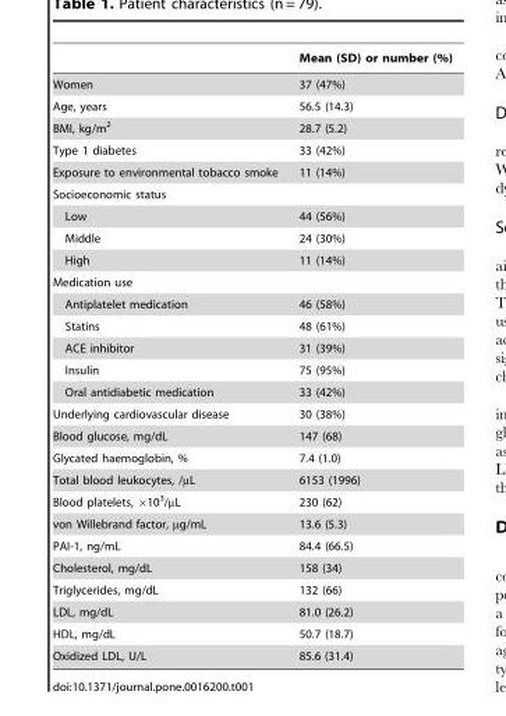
<table><thead><tr><td></td><td>Mean (SD) or number (%)</td></tr></thead><tbody><tr><td>Women</td><td>37 (47%)</td></tr><tr><td>Age, years</td><td>56.5 (14.3)</td></tr><tr><td>BMI, kg/m<sup>2</sup></td><td>28.7 (5.2)</td></tr><tr><td>Type 1 diabetes</td><td>33 (42%)</td></tr><tr><td>Exposure to environmental tobacco smoke</td><td>11 (14%)</td></tr><tr><td colspan="2">Socioeconomic status</td></tr><tr><td>Low</td><td>44 (56%)</td></tr><tr><td>Middle</td><td>24 (30%)</td></tr><tr><td>High</td><td>11 (14%)</td></tr><tr><td colspan="2">Medication use</td></tr><tr><td>Antiplatelet medication</td><td>46 (58%)</td></tr><tr><td>Statins</td><td>48 (61%)</td></tr><tr><td>ACE inhibitor</td><td>31 (39%)</td></tr><tr><td>Insulin</td><td>75 (95%)</td></tr><tr><td>Oral antidiabetic medication</td><td>33 (42%)</td></tr><tr><td>Underlying cardiovascular disease</td><td>30 (38%)</td></tr><tr><td>Blood glucose, mg/dL</td><td>147 (68)</td></tr><tr><td>Glycated haemoglobin, %</td><td>7.4 (1.0)</td></tr><tr><td>Total blood leukocytes, /µL</td><td>6153 (1996)</td></tr><tr><td>Blood platelets, ×10<sup>3</sup>/µL</td><td>230 (62)</td></tr><tr><td>von Willebrand factor, µg/mL</td><td>13.6 (5.3)</td></tr><tr><td>PAI-1, ng/mL</td><td>84.4 (66.5)</td></tr><tr><td>Cholesterol, mg/dL</td><td>158 (34)</td></tr><tr><td>Triglycerides, mg/dL</td><td>132 (66)</td></tr><tr><td>LDL, mg/dL</td><td>81.0 (26.2)</td></tr><tr><td>HDL, mg/dL</td><td>50.7 (18.7)</td></tr><tr><td>Oxidized LDL, U/L</td><td>85.6 (31.4)</td></tr></tbody></table>